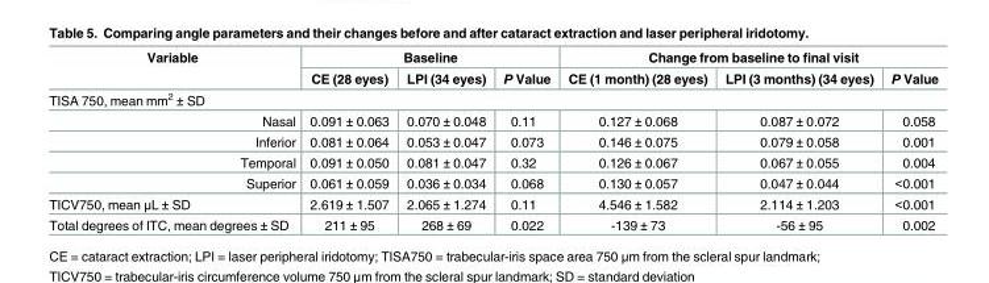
<table><thead><tr><td rowspan="2">Variable</td><td colspan="3">Baseline</td><td colspan="3">Change from baseline to final visit</td></tr><tr><td>CE (28 eyes)</td><td>LPI (34 eyes)</td><td>P Value</td><td>CE (1 month) (28 eyes)</td><td>LPI (3 months) (34 eyes)</td><td>P Value</td></tr></thead><tbody><tr><td colspan="7">TISA 750, mean mm<sup>2</sup> ± SD</td></tr><tr><td>Nasal</td><td>0.091 ± 0.063</td><td>0.070 ± 0.048</td><td>0.11</td><td>0.127 ± 0.068</td><td>0.087 ± 0.072</td><td>0.058</td></tr><tr><td>Inferior</td><td>0.081 ± 0.064</td><td>0.053 ± 0.047</td><td>0.073</td><td>0.146 ± 0.075</td><td>0.079 ± 0.058</td><td>0.001</td></tr><tr><td>Temporal</td><td>0.091 ± 0.050</td><td>0.081 ± 0.047</td><td>0.32</td><td>0.126 ± 0.067</td><td>0.067 ± 0.055</td><td>0.004</td></tr><tr><td>Superior</td><td>0.061 ± 0.059</td><td>0.036 ± 0.034</td><td>0.068</td><td>0.130 ± 0.057</td><td>0.047 ± 0.044</td><td>&lt;0.001</td></tr><tr><td>TICV750, mean μL ± SD</td><td>2.619 ± 1.507</td><td>2.065 ± 1.274</td><td>0.11</td><td>4.546 ± 1.582</td><td>2.114 ± 1.203</td><td>&lt;0.001</td></tr><tr><td>Total degrees of ITC, mean degrees ± SD</td><td>211 ± 95</td><td>268 ± 69</td><td>0.022</td><td>-139 ± 73</td><td>-56 ± 95</td><td>0.002</td></tr></tbody></table>